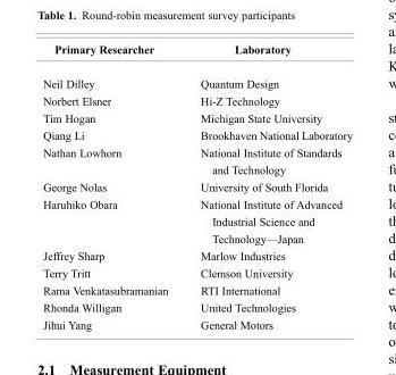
<table><thead><tr><td>Primary Researcher</td><td>Laboratory</td></tr></thead><tbody><tr><td>Neil Dilley</td><td>Quantum Design</td></tr><tr><td>Norbert Elsner</td><td>Hi-Z Technology</td></tr><tr><td>Tim Hogan</td><td>Michigan State University</td></tr><tr><td>Qiang Li</td><td>Brookhaven National Laboratory</td></tr><tr><td>Nathan Lowhorn</td><td>National Institute of Standards and Technology</td></tr><tr><td>George Nolas</td><td>University of South Florida</td></tr><tr><td>Haruhiko Obara</td><td>National Institute of Advanced Industrial Science and Technology—Japan</td></tr><tr><td>Jeffrey Sharp</td><td>Marlow Industries</td></tr><tr><td>Terry Tritt</td><td>Clemson University</td></tr><tr><td>Rama Venkatasubramanian</td><td>RTI International</td></tr><tr><td>Rhonda Willigan</td><td>United Technologies</td></tr><tr><td>Jihui Yang</td><td>General Motors</td></tr></tbody></table>